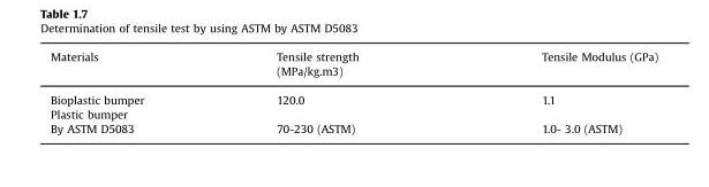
<table><thead><tr><td rowspan="2">Materials</td><td rowspan="2">Tensile strength (MPa/kg.m3)</td><td rowspan="2">Tensile Modulus (GPa)</td></tr><tr></tr></thead><tbody><tr><td>Bioplastic bumper</td><td>120.0</td><td>1.1</td></tr><tr><td colspan="3">Plastic bumper</td></tr><tr><td>By ASTM D5083</td><td>70-230 (ASTM)</td><td>1.0- 3.0 (ASTM)</td></tr></tbody></table>